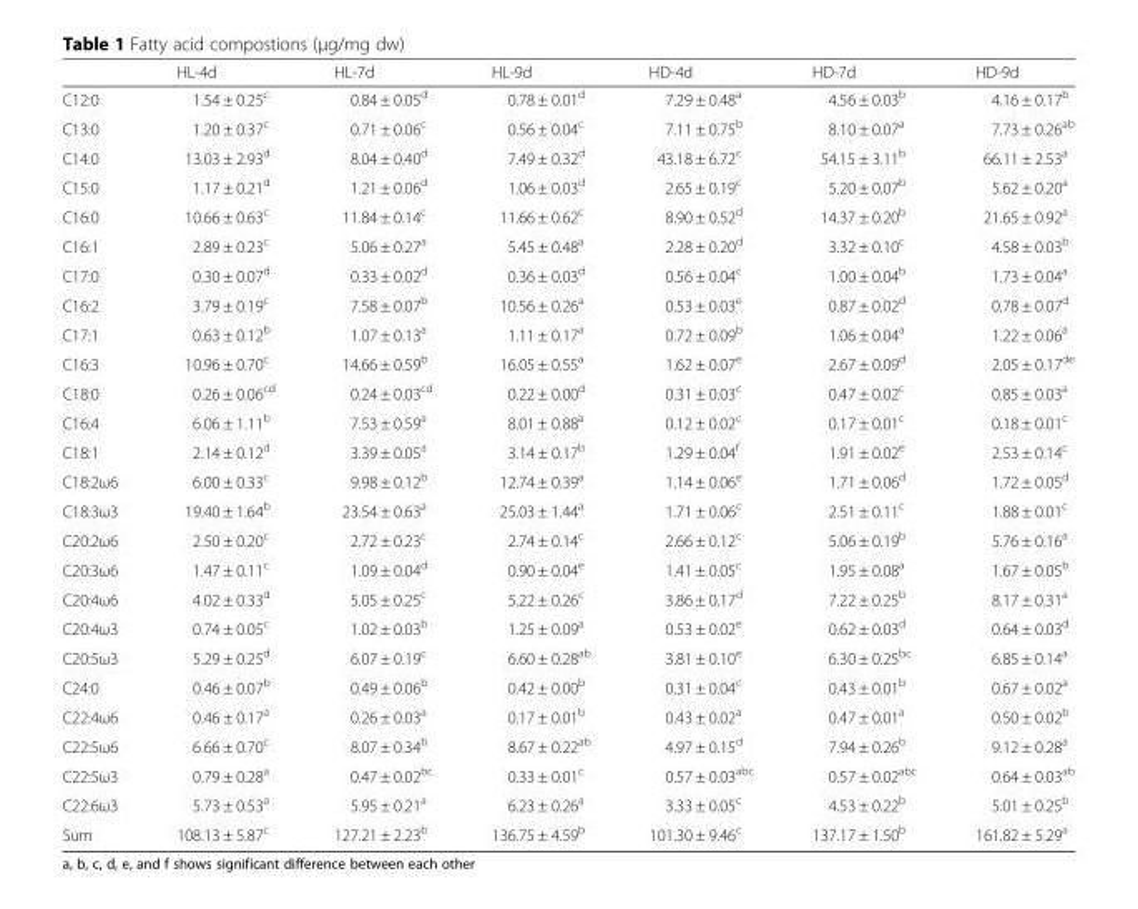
<table><thead><tr><td></td><td>HL-4d</td><td>HL-7d</td><td>HL-9d</td><td>HD-4d</td><td>HD-7d</td><td>HD-9d</td></tr></thead><tbody><tr><td>C12:0</td><td>1.54 ± 0.25<sup>c</sup></td><td>0.84 ± 0.05<sup>d</sup></td><td>0.78 ± 0.01<sup>d</sup></td><td>7.29 ± 0.48<sup>a</sup></td><td>4.56 ± 0.03<sup>b</sup></td><td>4.16 ± 0.17<sup>b</sup></td></tr><tr><td>C13:0</td><td>1.20 ± 0.37<sup>c</sup></td><td>0.71 ± 0.06<sup>c</sup></td><td>0.56 ± 0.04<sup>c</sup></td><td>7.11 ± 0.75<sup>b</sup></td><td>8.10 ± 0.07<sup>a</sup></td><td>7.73 ± 0.26<sup>ab</sup></td></tr><tr><td>C14:0</td><td>13.03 ± 2.93<sup>d</sup></td><td>8.04 ± 0.40<sup>d</sup></td><td>7.49 ± 0.32<sup>d</sup></td><td>43.18 ± 6.72<sup>c</sup></td><td>54.15 ± 3.11<sup>b</sup></td><td>66.11 ± 2.53<sup>a</sup></td></tr><tr><td>C15:0</td><td>1.17 ± 0.21<sup>d</sup></td><td>1.21 ± 0.06<sup>d</sup></td><td>1.06 ± 0.03<sup>d</sup></td><td>2.65 ± 0.19<sup>c</sup></td><td>5.20 ± 0.07<sup>b</sup></td><td>5.62 ± 0.20<sup>a</sup></td></tr><tr><td>C16:0</td><td>10.66 ± 0.63<sup>c</sup></td><td>11.84 ± 0.14<sup>c</sup></td><td>11.66 ± 0.62<sup>c</sup></td><td>8.90 ± 0.52<sup>d</sup></td><td>14.37 ± 0.20<sup>b</sup></td><td>21.65 ± 0.92<sup>a</sup></td></tr><tr><td>C16:1</td><td>2.89 ± 0.23<sup>c</sup></td><td>5.06 ± 0.27<sup>a</sup></td><td>5.45 ± 0.48<sup>a</sup></td><td>2.28 ± 0.20<sup>d</sup></td><td>3.32 ± 0.10<sup>c</sup></td><td>4.58 ± 0.03<sup>b</sup></td></tr><tr><td>C17:0</td><td>0.30 ± 0.07<sup>d</sup></td><td>0.33 ± 0.02<sup>d</sup></td><td>0.36 ± 0.03<sup>d</sup></td><td>0.56 ± 0.04<sup>c</sup></td><td>1.00 ± 0.04<sup>b</sup></td><td>1.73 ± 0.04<sup>a</sup></td></tr><tr><td>C16:2</td><td>3.79 ± 0.19<sup>c</sup></td><td>7.58 ± 0.07<sup>b</sup></td><td>10.56 ± 0.26<sup>a</sup></td><td>0.53 ± 0.03<sup>e</sup></td><td>0.87 ± 0.02<sup>d</sup></td><td>0.78 ± 0.07<sup>d</sup></td></tr><tr><td>C17:1</td><td>0.63 ± 0.12<sup>b</sup></td><td>1.07 ± 0.13<sup>a</sup></td><td>1.11 ± 0.17<sup>a</sup></td><td>0.72 ± 0.09<sup>b</sup></td><td>1.06 ± 0.04<sup>a</sup></td><td>1.22 ± 0.06<sup>a</sup></td></tr><tr><td>C16:3</td><td>10.96 ± 0.70<sup>c</sup></td><td>14.66 ± 0.59<sup>b</sup></td><td>16.05 ± 0.55<sup>a</sup></td><td>1.62 ± 0.07<sup>e</sup></td><td>2.67 ± 0.09<sup>d</sup></td><td>2.05 ± 0.17<sup>de</sup></td></tr><tr><td>C18:0</td><td>0.26 ± 0.06<sup>cd</sup></td><td>0.24 ± 0.03<sup>cd</sup></td><td>0.22 ± 0.00<sup>d</sup></td><td>0.31 ± 0.03<sup>c</sup></td><td>0.47 ± 0.02<sup>c</sup></td><td>0.85 ± 0.03<sup>a</sup></td></tr><tr><td>C16:4</td><td>6.06 ± 1.11<sup>b</sup></td><td>7.53 ± 0.59<sup>a</sup></td><td>8.01 ± 0.88<sup>a</sup></td><td>0.12 ± 0.02<sup>c</sup></td><td>0.17 ± 0.01<sup>c</sup></td><td>0.18 ± 0.01<sup>c</sup></td></tr><tr><td>C18:1</td><td>2.14 ± 0.12<sup>d</sup></td><td>3.39 ± 0.05<sup>a</sup></td><td>3.14 ± 0.17<sup>b</sup></td><td>1.29 ± 0.04<sup>f</sup></td><td>1.91 ± 0.02<sup>e</sup></td><td>2.53 ± 0.14<sup>c</sup></td></tr><tr><td>C18:2ω6</td><td>6.00 ± 0.33<sup>c</sup></td><td>9.98 ± 0.12<sup>b</sup></td><td>12.74 ± 0.39<sup>a</sup></td><td>1.14 ± 0.06<sup>e</sup></td><td>1.71 ± 0.06<sup>d</sup></td><td>1.72 ± 0.05<sup>d</sup></td></tr><tr><td>C18:3ω3</td><td>19.40 ± 1.64<sup>b</sup></td><td>23.54 ± 0.63<sup>a</sup></td><td>25.03 ± 1.44<sup>a</sup></td><td>1.71 ± 0.06<sup>c</sup></td><td>2.51 ± 0.11<sup>c</sup></td><td>1.88 ± 0.01<sup>c</sup></td></tr><tr><td>C20:2ω6</td><td>2.50 ± 0.20<sup>c</sup></td><td>2.72 ± 0.23<sup>c</sup></td><td>2.74 ± 0.14<sup>c</sup></td><td>2.66 ± 0.12<sup>c</sup></td><td>5.06 ± 0.19<sup>b</sup></td><td>5.76 ± 0.16<sup>a</sup></td></tr><tr><td>C20:3ω6</td><td>1.47 ± 0.11<sup>c</sup></td><td>1.09 ± 0.04<sup>d</sup></td><td>0.90 ± 0.04<sup>e</sup></td><td>1.41 ± 0.05<sup>c</sup></td><td>1.95 ± 0.08<sup>a</sup></td><td>1.67 ± 0.05<sup>b</sup></td></tr><tr><td>C20:4ω6</td><td>4.02 ± 0.33<sup>d</sup></td><td>5.05 ± 0.25<sup>c</sup></td><td>5.22 ± 0.26<sup>c</sup></td><td>3.86 ± 0.17<sup>d</sup></td><td>7.22 ± 0.25<sup>b</sup></td><td>8.17 ± 0.31<sup>a</sup></td></tr><tr><td>C20:4ω3</td><td>0.74 ± 0.05<sup>c</sup></td><td>1.02 ± 0.03<sup>b</sup></td><td>1.25 ± 0.09<sup>a</sup></td><td>0.53 ± 0.02<sup>e</sup></td><td>0.62 ± 0.03<sup>d</sup></td><td>0.64 ± 0.03<sup>d</sup></td></tr><tr><td>C20:5ω3</td><td>5.29 ± 0.25<sup>d</sup></td><td>6.07 ± 0.19<sup>c</sup></td><td>6.60 ± 0.28<sup>ab</sup></td><td>3.81 ± 0.10<sup>e</sup></td><td>6.30 ± 0.25<sup>bc</sup></td><td>6.85 ± 0.14<sup>a</sup></td></tr><tr><td>C24:0</td><td>0.46 ± 0.07<sup>b</sup></td><td>0.49 ± 0.06<sup>b</sup></td><td>0.42 ± 0.00<sup>b</sup></td><td>0.31 ± 0.04<sup>c</sup></td><td>0.43 ± 0.01<sup>b</sup></td><td>0.67 ± 0.02<sup>a</sup></td></tr><tr><td>C22:4ω6</td><td>0.46 ± 0.17<sup>a</sup></td><td>0.26 ± 0.03<sup>a</sup></td><td>0.17 ± 0.01<sup>b</sup></td><td>0.43 ± 0.02<sup>a</sup></td><td>0.47 ± 0.01<sup>a</sup></td><td>0.50 ± 0.02<sup>b</sup></td></tr><tr><td>C22:5ω6</td><td>6.66 ± 0.70<sup>c</sup></td><td>8.07 ± 0.34<sup>b</sup></td><td>8.67 ± 0.22<sup>ab</sup></td><td>4.97 ± 0.15<sup>d</sup></td><td>7.94 ± 0.26<sup>b</sup></td><td>9.12 ± 0.28<sup>a</sup></td></tr><tr><td>C22:5ω3</td><td>0.79 ± 0.28<sup>a</sup></td><td>0.47 ± 0.02<sup>bc</sup></td><td>0.33 ± 0.01<sup>c</sup></td><td>0.57 ± 0.03<sup>abc</sup></td><td>0.57 ± 0.02<sup>abc</sup></td><td>0.64 ± 0.03<sup>ab</sup></td></tr><tr><td>C22:6ω3</td><td>5.73 ± 0.53<sup>a</sup></td><td>5.95 ± 0.21<sup>a</sup></td><td>6.23 ± 0.26<sup>a</sup></td><td>3.33 ± 0.05<sup>c</sup></td><td>4.53 ± 0.22<sup>b</sup></td><td>5.01 ± 0.25<sup>b</sup></td></tr><tr><td>Sum</td><td>108.13 ± 5.87<sup>c</sup></td><td>127.21 ± 2.23<sup>b</sup></td><td>136.75 ± 4.59<sup>b</sup></td><td>101.30 ± 9.46<sup>c</sup></td><td>137.17 ± 1.50<sup>b</sup></td><td>161.82 ± 5.29<sup>a</sup></td></tr></tbody></table>